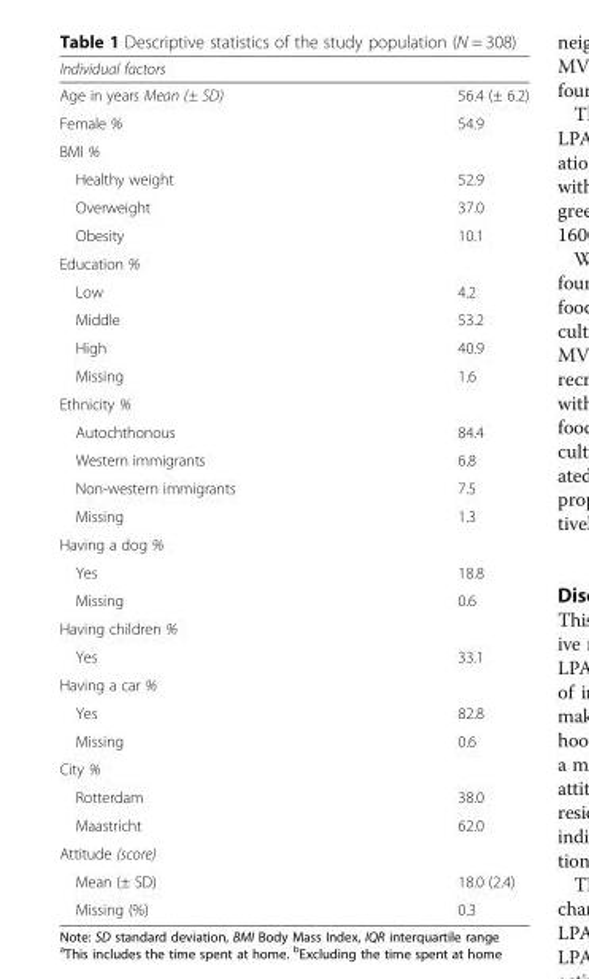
<table><thead><tr><td>Individual factors</td><td></td></tr></thead><tbody><tr><td>Age in years Mean (± SD)</td><td>56.4 (± 6.2)</td></tr><tr><td>Female %</td><td>54.9</td></tr><tr><td colspan="2">BMI %</td></tr><tr><td>Healthy weight</td><td>52.9</td></tr><tr><td>Overweight</td><td>37.0</td></tr><tr><td>Obesity</td><td>10.1</td></tr><tr><td colspan="2">Education %</td></tr><tr><td>Low</td><td>4.2</td></tr><tr><td>Middle</td><td>53.2</td></tr><tr><td>High</td><td>40.9</td></tr><tr><td>Missing</td><td>1.6</td></tr><tr><td colspan="2">Ethnicity %</td></tr><tr><td>Autochthonous</td><td>84.4</td></tr><tr><td>Western immigrants</td><td>6.8</td></tr><tr><td>Non-western immigrants</td><td>7.5</td></tr><tr><td>Missing</td><td>1.3</td></tr><tr><td colspan="2">Having a dog %</td></tr><tr><td>Yes</td><td>18.8</td></tr><tr><td>Missing</td><td>0.6</td></tr><tr><td colspan="2">Having children %</td></tr><tr><td>Yes</td><td>33.1</td></tr><tr><td colspan="2">Having a car %</td></tr><tr><td>Yes</td><td>82.8</td></tr><tr><td>Missing</td><td>0.6</td></tr><tr><td colspan="2">City %</td></tr><tr><td>Rotterdam</td><td>38.0</td></tr><tr><td>Maastricht</td><td>62.0</td></tr><tr><td colspan="2">Attitude (score)</td></tr><tr><td>Mean (± SD)</td><td>18.0 (2.4)</td></tr><tr><td>Missing (%)</td><td>0.3</td></tr></tbody></table>